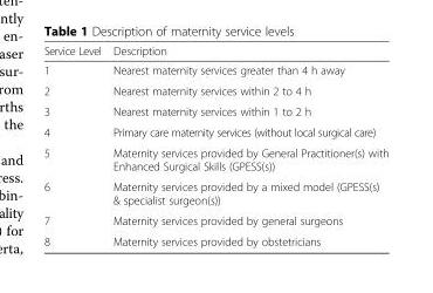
<table><thead><tr><td>Service Level</td><td>Description</td></tr></thead><tbody><tr><td>1</td><td>Nearest maternity services greater than 4 h away</td></tr><tr><td>2</td><td>Nearest maternity services within 2 to 4 h</td></tr><tr><td>3</td><td>Nearest maternity services within 1 to 2 h</td></tr><tr><td>4</td><td>Primary care maternity services (without local surgical care)</td></tr><tr><td>5</td><td>Maternity services provided by General Practitioner(s) with Enhanced Surgical Skills (GPESS(s))</td></tr><tr><td>6</td><td>Maternity services provided by a mixed model (GPESS(s) &amp; specialist surgeon(s))</td></tr><tr><td>7</td><td>Maternity services provided by general surgeons</td></tr><tr><td>8</td><td>Maternity services provided by obstetricians</td></tr></tbody></table>